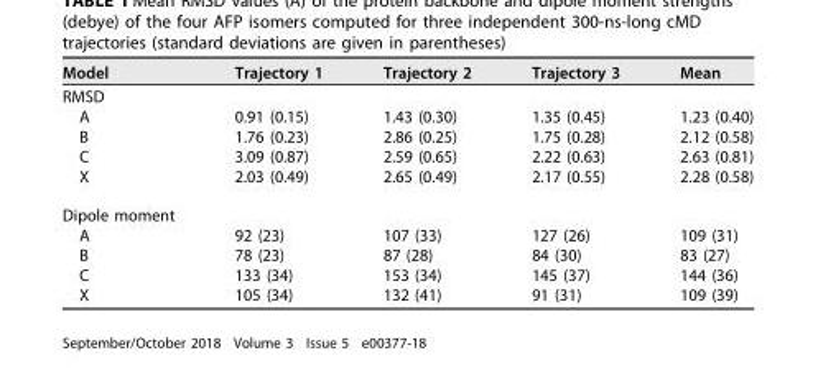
<table><thead><tr><td>Model</td><td>Trajectory 1</td><td>Trajectory 2</td><td>Trajectory 3</td><td>Mean</td></tr></thead><tbody><tr><td colspan="5">RMSD</td></tr><tr><td>A</td><td>0.91 (0.15)</td><td>1.43 (0.30)</td><td>1.35 (0.45)</td><td>1.23 (0.40)</td></tr><tr><td>B</td><td>1.76 (0.23)</td><td>2.86 (0.25)</td><td>1.75 (0.28)</td><td>2.12 (0.58)</td></tr><tr><td>C</td><td>3.09 (0.87)</td><td>2.59 (0.65)</td><td>2.22 (0.63)</td><td>2.63 (0.81)</td></tr><tr><td>X</td><td>2.03 (0.49)</td><td>2.65 (0.49)</td><td>2.17 (0.55)</td><td>2.28 (0.58)</td></tr><tr><td colspan="5">Dipole moment</td></tr><tr><td>A</td><td>92 (23)</td><td>107 (33)</td><td>127 (26)</td><td>109 (31)</td></tr><tr><td>B</td><td>78 (23)</td><td>87 (28)</td><td>84 (30)</td><td>83 (27)</td></tr><tr><td>C</td><td>133 (34)</td><td>153 (34)</td><td>145 (37)</td><td>144 (36)</td></tr><tr><td>X</td><td>105 (34)</td><td>132 (41)</td><td>91 (31)</td><td>109 (39)</td></tr></tbody></table>